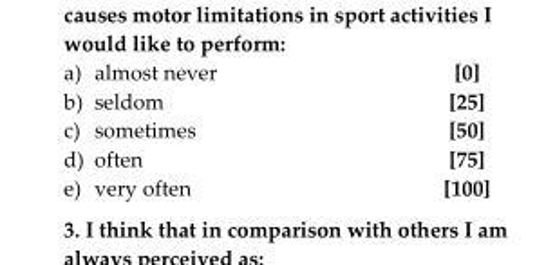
<table><tbody><tr><td>a) almost never</td><td>[0]</td></tr><tr><td>b) seldom</td><td>[25]</td></tr><tr><td>c) sometimes</td><td>[50]</td></tr><tr><td>d) often</td><td>[75]</td></tr><tr><td>e) very often</td><td>[100]</td></tr></tbody></table>